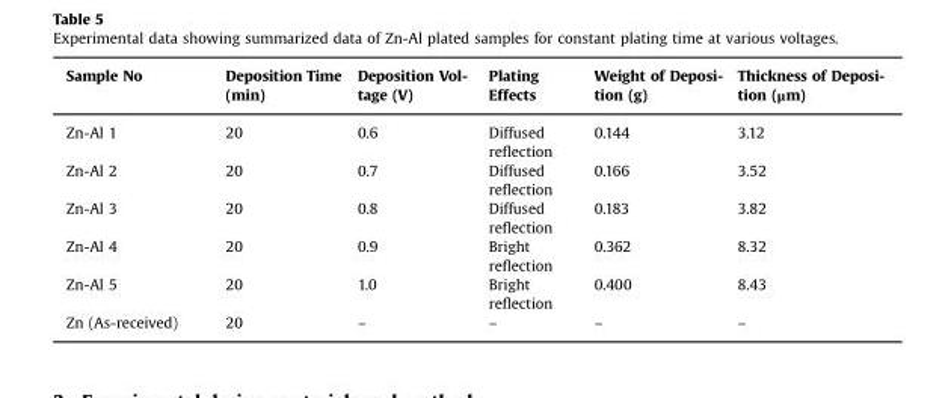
<table><thead><tr><td>Sample No</td><td>Deposition Time (min)</td><td>Deposition Vol- tage (V)</td><td>Plating Effects</td><td>Weight of Deposi- tion (g)</td><td>Thickness of Deposi- tion (μm)</td></tr></thead><tbody><tr><td>Zn-Al 1</td><td>20</td><td>0.6</td><td>Diffused reflection</td><td>0.144</td><td>3.12</td></tr><tr><td>Zn-Al 2</td><td>20</td><td>0.7</td><td>Diffused reflection</td><td>0.166</td><td>3.52</td></tr><tr><td>Zn-Al 3</td><td>20</td><td>0.8</td><td>Diffused reflection</td><td>0.183</td><td>3.82</td></tr><tr><td>Zn-Al 4</td><td>20</td><td>0.9</td><td>Bright reflection</td><td>0.362</td><td>8.32</td></tr><tr><td>Zn-Al 5</td><td>20</td><td>1.0</td><td>Bright reflection</td><td>0.400</td><td>8.43</td></tr><tr><td>Zn (As-received)</td><td>20</td><td>–</td><td>–</td><td>–</td><td>–</td></tr></tbody></table>